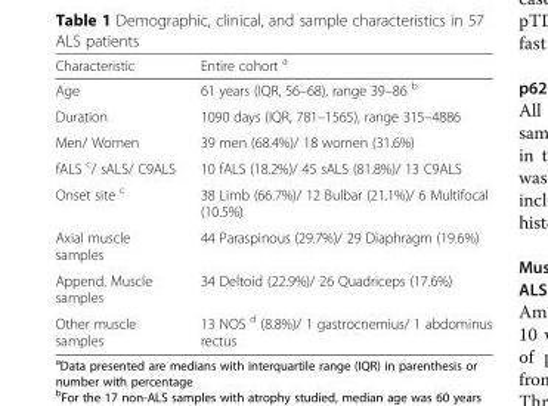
<table><thead><tr><td>Characteristic</td><td>Entire cohort <sup>a</sup></td></tr></thead><tbody><tr><td>Age</td><td>61 years (IQR, 56–68), range 39–86 <sup>b</sup></td></tr><tr><td>Duration</td><td>1090 days (IQR, 781–1565), range 315–4886</td></tr><tr><td>Men/ Women</td><td>39 men (68.4%)/ 18 women (31.6%)</td></tr><tr><td>fALS <sup>c</sup>/ sALS/ C9ALS</td><td>10 fALS (18.2%)/ 45 sALS (81.8%)/ 13 C9ALS</td></tr><tr><td>Onset site <sup>c</sup></td><td>38 Limb (66.7%)/ 12 Bulbar (21.1%)/ 6 Multifocal (10.5%)</td></tr><tr><td>Axial muscle samples</td><td>44 Paraspinous (29.7%)/ 29 Diaphragm (19.6%)</td></tr><tr><td>Append. Muscle samples</td><td>34 Deltoid (22.9%)/ 26 Quadriceps (17.6%)</td></tr><tr><td>Other muscle samples</td><td>13 NOS <sup>d</sup> (8.8%)/ 1 gastrocnemius/ 1 abdominus rectus</td></tr></tbody></table>